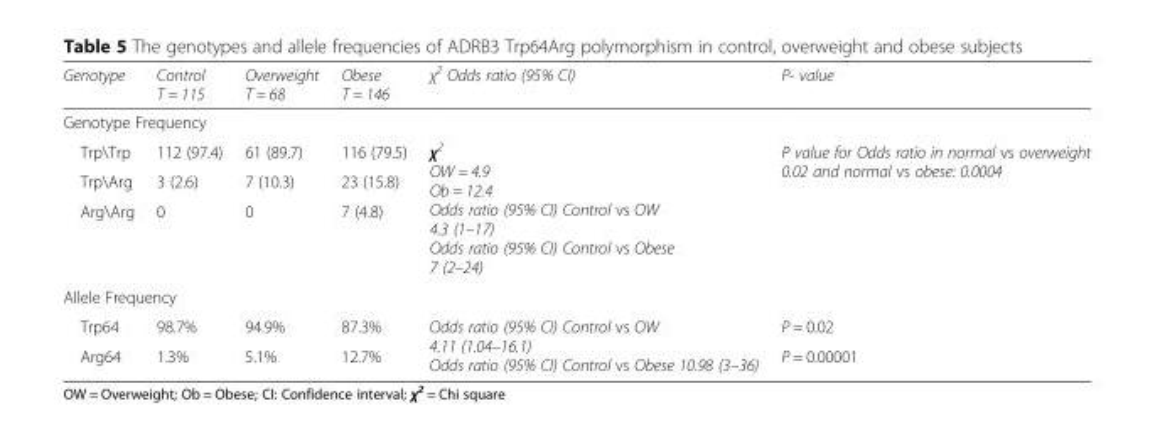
<table><thead><tr><td>Genotype</td><td>Control T = 115</td><td>Overweight T = 68</td><td>Obese T = 146</td><td>χ<sup>2</sup> Odds ratio (95% CI)</td><td>P- value</td></tr></thead><tbody><tr><td colspan="6">Genotype Frequency</td></tr><tr><td>Trp\Trp</td><td>112 (97.4)</td><td>61 (89.7)</td><td>116 (79.5)</td><td rowspan="3">χ<sup>2</sup> OW = 4.9 Ob = 12.4 Odds ratio (95% CI) Control vs OW 4.3 (1–17) Odds ratio (95% CI) Control vs Obese 7 (2–24)</td><td rowspan="3">P value for Odds ratio in normal vs overweight 0.02 and normal vs obese: 0.0004</td></tr><tr><td>Trp\Arg</td><td>3 (2.6)</td><td>7 (10.3)</td><td>23 (15.8)</td></tr><tr><td>Arg\Arg</td><td>0</td><td>0</td><td>7 (4.8)</td></tr><tr><td colspan="6">Allele Frequency</td></tr><tr><td>Trp64</td><td>98.7%</td><td>94.9%</td><td>87.3%</td><td rowspan="2">Odds ratio (95% CI) Control vs OW 4.11 (1.04–16.1) Odds ratio (95% CI) Control vs Obese 10.98 (3–36)</td><td>P = 0.02</td></tr><tr><td>Arg64</td><td>1.3%</td><td>5.1%</td><td>12.7%</td><td>P = 0.00001</td></tr></tbody></table>